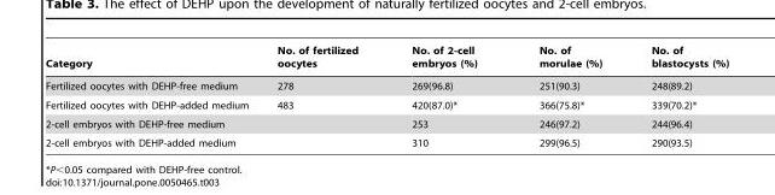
<table><thead><tr><td>Category</td><td>No. of fertilized oocytes</td><td>No. of 2-cell embryos (%)</td><td>No. of morulae (%)</td><td>No. of blastocysts (%)</td></tr></thead><tbody><tr><td>Fertilized oocytes with DEHP-free medium</td><td>278</td><td>269(96.8)</td><td>251(90.3)</td><td>248(89.2)</td></tr><tr><td>Fertilized oocytes with DEHP-added medium</td><td>483</td><td>420(87.0)*</td><td>366(75.8)*</td><td>339(70.2)*</td></tr><tr><td>2-cell embryos with DEHP-free medium</td><td></td><td>253</td><td>246(97.2)</td><td>244(96.4)</td></tr><tr><td>2-cell embryos with DEHP-added medium</td><td></td><td>310</td><td>299(96.5)</td><td>290(93.5)</td></tr></tbody></table>